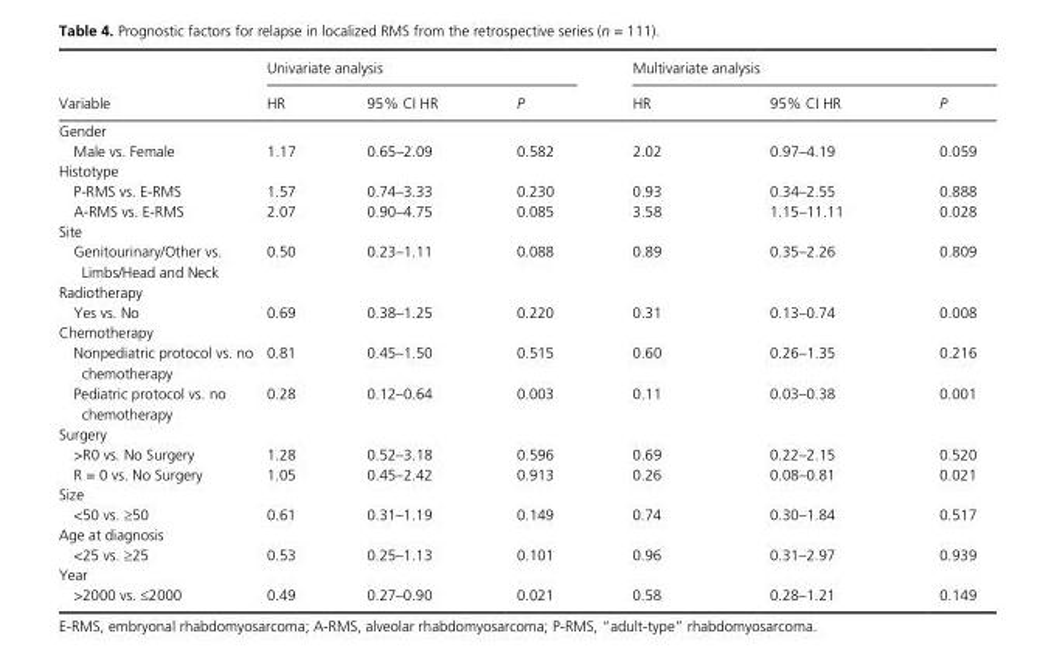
<table><thead><tr><td rowspan="2">Variable</td><td colspan="3">Univariate analysis</td><td colspan="3">Multivariate analysis</td></tr><tr><td>HR</td><td>95% CI HR</td><td>P</td><td>HR</td><td>95% CI HR</td><td>P</td></tr></thead><tbody><tr><td colspan="7">Gender</td></tr><tr><td>Male vs. Female</td><td>1.17</td><td>0.65–2.09</td><td>0.582</td><td>2.02</td><td>0.97–4.19</td><td>0.059</td></tr><tr><td colspan="7">Histotype</td></tr><tr><td>P- RMS vs. E- RMS</td><td>1.57</td><td>0.74–3.33</td><td>0.230</td><td>0.93</td><td>0.34–2.55</td><td>0.888</td></tr><tr><td>A- RMS vs. E- RMS</td><td>2.07</td><td>0.90–4.75</td><td>0.085</td><td>3.58</td><td>1.15–11.11</td><td>0.028</td></tr><tr><td colspan="7">Site</td></tr><tr><td>Genitourinary/Other vs. Limbs/Head and Neck</td><td>0.50</td><td>0.23–1.11</td><td>0.088</td><td>0.89</td><td>0.35–2.26</td><td>0.809</td></tr><tr><td colspan="7">Radiotherapy</td></tr><tr><td>Yes vs. No</td><td>0.69</td><td>0.38–1.25</td><td>0.220</td><td>0.31</td><td>0.13–0.74</td><td>0.008</td></tr><tr><td colspan="7">Chemotherapy</td></tr><tr><td>Nonpediatric protocol vs. no chemotherapy</td><td>0.81</td><td>0.45–1.50</td><td>0.515</td><td>0.60</td><td>0.26–1.35</td><td>0.216</td></tr><tr><td>Pediatric protocol vs. no chemotherapy</td><td>0.28</td><td>0.12–0.64</td><td>0.003</td><td>0.11</td><td>0.03–0.38</td><td>0.001</td></tr><tr><td colspan="7">Surgery</td></tr><tr><td>&gt;R0 vs. No Surgery</td><td>1.28</td><td>0.52–3.18</td><td>0.596</td><td>0.69</td><td>0.22–2.15</td><td>0.520</td></tr><tr><td>R = 0 vs. No Surgery</td><td>1.05</td><td>0.45–2.42</td><td>0.913</td><td>0.26</td><td>0.08–0.81</td><td>0.021</td></tr><tr><td colspan="7">Size</td></tr><tr><td>&lt;50 vs. ≥50</td><td>0.61</td><td>0.31–1.19</td><td>0.149</td><td>0.74</td><td>0.30–1.84</td><td>0.517</td></tr><tr><td colspan="7">Age at diagnosis</td></tr><tr><td>&lt;25 vs. ≥25</td><td>0.53</td><td>0.25–1.13</td><td>0.101</td><td>0.96</td><td>0.31–2.97</td><td>0.939</td></tr><tr><td colspan="7">Year</td></tr><tr><td>&gt;2000 vs. ≤2000</td><td>0.49</td><td>0.27–0.90</td><td>0.021</td><td>0.58</td><td>0.28–1.21</td><td>0.149</td></tr></tbody></table>